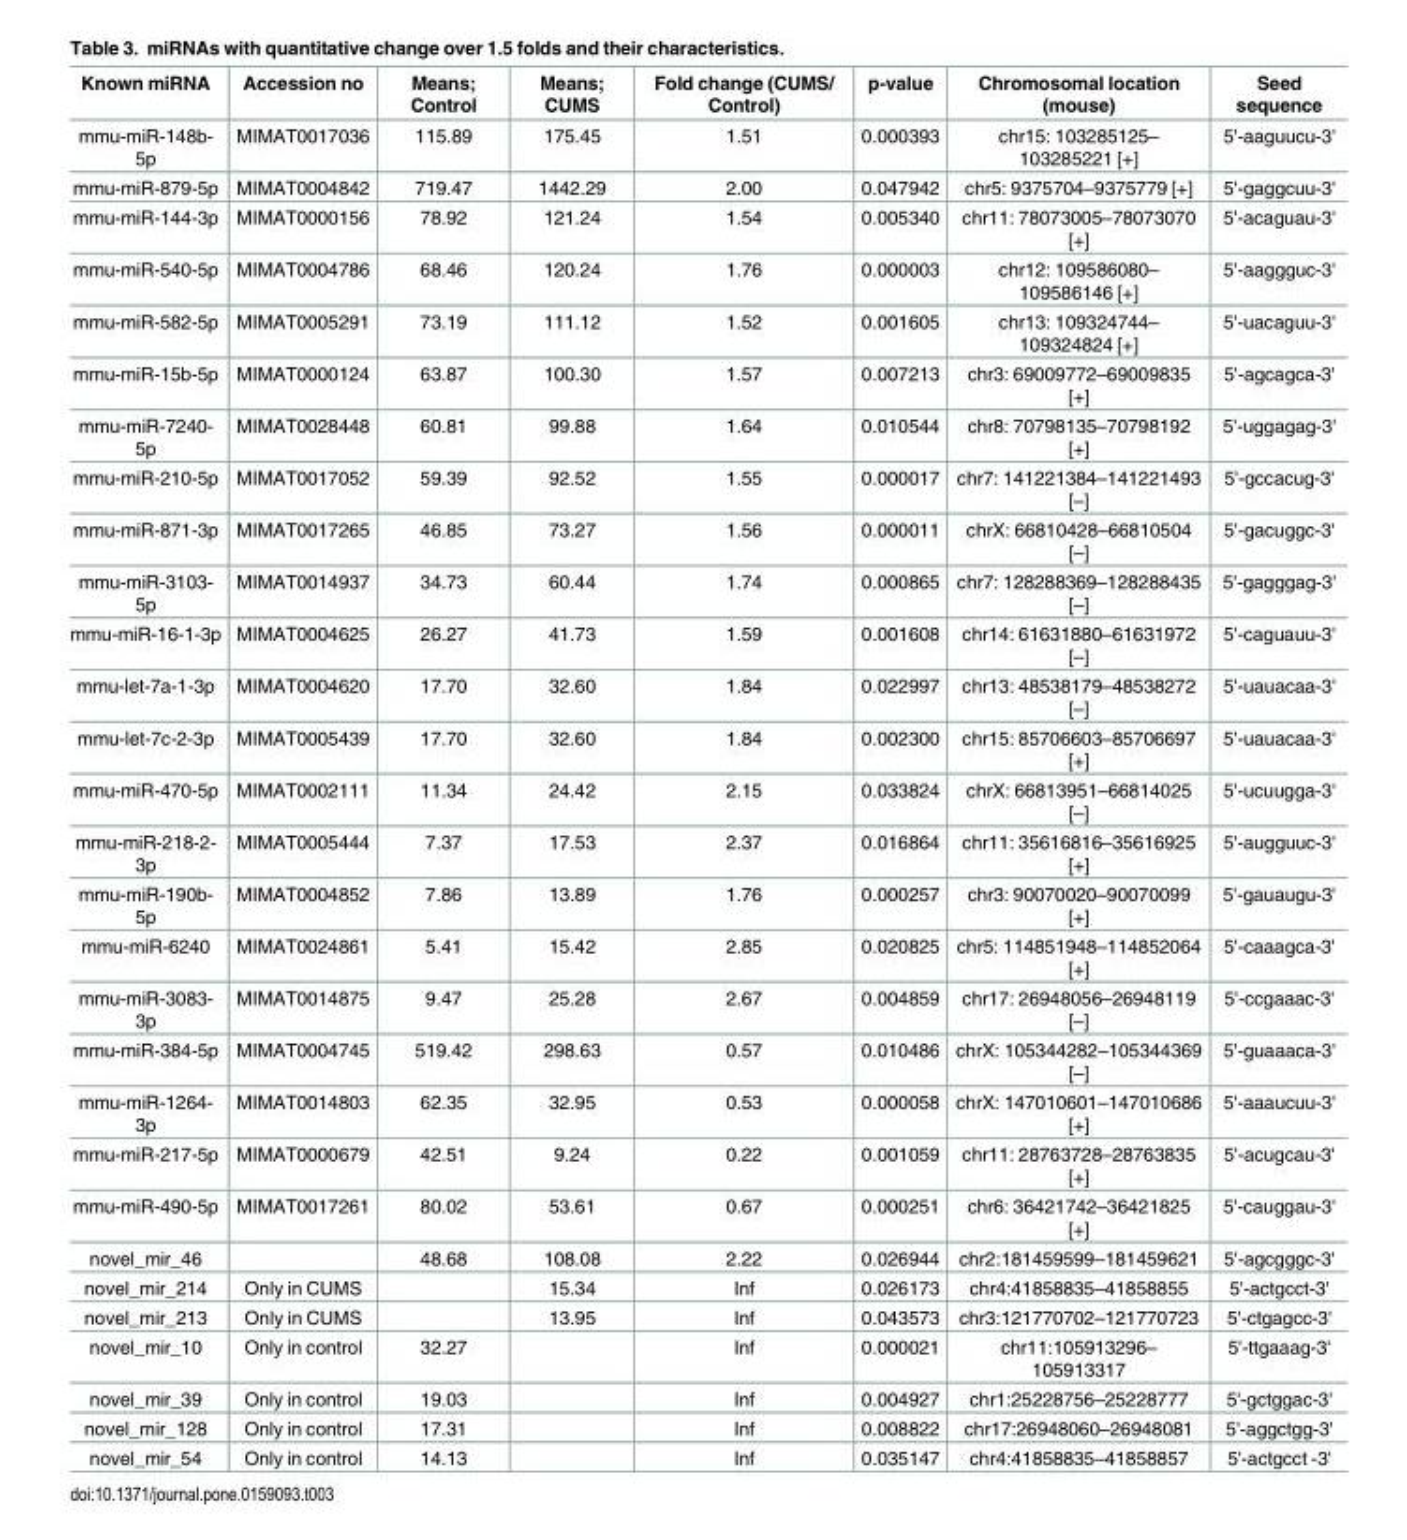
<table><thead><tr><td>Known miRNA</td><td>Accession no</td><td>Means; Control</td><td>Means; CUMS</td><td>Fold change (CUMS/ Control)</td><td>p-value</td><td>Chromosomal location (mouse)</td><td>Seed sequence</td></tr></thead><tbody><tr><td>mmu-miR-148b- 5p</td><td>MIMAT0017036</td><td>115.89</td><td>175.45</td><td>1.51</td><td>0.000393</td><td>chr15: 103285125– 103285221 [+]</td><td>5&#x27;-aaguucu-3&#x27;</td></tr><tr><td>mmu-miR-879-5p</td><td>MIMAT0004842</td><td>719.47</td><td>1442.29</td><td>2.00</td><td>0.047942</td><td>chr5: 9375704–9375779 [+]</td><td>5&#x27;-gaggcuu-3&#x27;</td></tr><tr><td>mmu-miR-144-3p</td><td>MIMAT0000156</td><td>78.92</td><td>121.24</td><td>1.54</td><td>0.005340</td><td>chr11: 78073005–78073070 [+]</td><td>5&#x27;-acaguau-3&#x27;</td></tr><tr><td>mmu-miR-540-5p</td><td>MIMAT0004786</td><td>68.46</td><td>120.24</td><td>1.76</td><td>0.000003</td><td>chr12: 109586080– 109586146 [+]</td><td>5&#x27;-aaggguc-3&#x27;</td></tr><tr><td>mmu-miR-582-5p</td><td>MIMAT0005291</td><td>73.19</td><td>111.12</td><td>1.52</td><td>0.001605</td><td>chr13: 109324744– 109324824 [+]</td><td>5&#x27;-uacaguu-3&#x27;</td></tr><tr><td>mmu-miR-15b-5p</td><td>MIMAT0000124</td><td>63.87</td><td>100.30</td><td>1.57</td><td>0.007213</td><td>chr3: 69009772–69009835 [+]</td><td>5&#x27;-agcagca-3&#x27;</td></tr><tr><td>mmu-miR-7240- 5p</td><td>MIMAT0028448</td><td>60.81</td><td>99.88</td><td>1.64</td><td>0.010544</td><td>chr8: 70798135–70798192 [+]</td><td>5&#x27;-uggagag-3&#x27;</td></tr><tr><td>mmu-miR-210-5p</td><td>MIMAT0017052</td><td>59.39</td><td>92.52</td><td>1.55</td><td>0.000017</td><td>chr7: 141221384–141221493 [–]</td><td>5&#x27;-gccacug-3&#x27;</td></tr><tr><td>mmu-miR-871-3p</td><td>MIMAT0017265</td><td>46.85</td><td>73.27</td><td>1.56</td><td>0.000011</td><td>chrX: 66810428–66810504 [–]</td><td>5&#x27;-gacuggc-3&#x27;</td></tr><tr><td>mmu-miR-3103- 5p</td><td>MIMAT0014937</td><td>34.73</td><td>60.44</td><td>1.74</td><td>0.000865</td><td>chr7: 128288369–128288435 [–]</td><td>5&#x27;-gagggag-3&#x27;</td></tr><tr><td>mmu-miR-16-1-3p</td><td>MIMAT0004625</td><td>26.27</td><td>41.73</td><td>1.59</td><td>0.001608</td><td>chr14: 61631880–61631972 [–]</td><td>5&#x27;-caguauu-3&#x27;</td></tr><tr><td>mmu-let-7a-1-3p</td><td>MIMAT0004620</td><td>17.70</td><td>32.60</td><td>1.84</td><td>0.022997</td><td>chr13: 48538179–48538272 [–]</td><td>5&#x27;-uauacaa-3&#x27;</td></tr><tr><td>mmu-let-7c-2-3p</td><td>MIMAT0005439</td><td>17.70</td><td>32.60</td><td>1.84</td><td>0.002300</td><td>chr15: 85706603–85706697 [+]</td><td>5&#x27;-uauacaa-3&#x27;</td></tr><tr><td>mmu-miR-470-5p</td><td>MIMAT0002111</td><td>11.34</td><td>24.42</td><td>2.15</td><td>0.033824</td><td>chrX: 66813951–66814025 [–]</td><td>5&#x27;-ucuugga-3&#x27;</td></tr><tr><td>mmu-miR-218-2- 3p</td><td>MIMAT0005444</td><td>7.37</td><td>17.53</td><td>2.37</td><td>0.016864</td><td>chr11: 35616816–35616925 [+]</td><td>5&#x27;-augguuc-3&#x27;</td></tr><tr><td>mmu-miR-190b- 5p</td><td>MIMAT0004852</td><td>7.86</td><td>13.89</td><td>1.76</td><td>0.000257</td><td>chr3: 90070020–90070099 [+]</td><td>5&#x27;-gauaugu-3&#x27;</td></tr><tr><td>mmu-miR-6240</td><td>MIMAT0024861</td><td>5.41</td><td>15.42</td><td>2.85</td><td>0.020825</td><td>chr5: 114851948–114852064 [+]</td><td>5&#x27;-caaagca-3&#x27;</td></tr><tr><td>mmu-miR-3083- 3p</td><td>MIMAT0014875</td><td>9.47</td><td>25.28</td><td>2.67</td><td>0.004859</td><td>chr17: 26948056–26948119 [–]</td><td>5&#x27;-ccgaaac-3&#x27;</td></tr><tr><td>mmu-miR-384-5p</td><td>MIMAT0004745</td><td>519.42</td><td>298.63</td><td>0.57</td><td>0.010486</td><td>chrX: 105344282–105344369 [–]</td><td>5&#x27;-guaaaca-3&#x27;</td></tr><tr><td>mmu-miR-1264- 3p</td><td>MIMAT0014803</td><td>62.35</td><td>32.95</td><td>0.53</td><td>0.000058</td><td>chrX: 147010601–147010686 [+]</td><td>5&#x27;-aaaucuu-3&#x27;</td></tr><tr><td>mmu-miR-217-5p</td><td>MIMAT0000679</td><td>42.51</td><td>9.24</td><td>0.22</td><td>0.001059</td><td>chr11: 28763728–28763835 [+]</td><td>5&#x27;-acugcau-3&#x27;</td></tr><tr><td>mmu-miR-490-5p</td><td>MIMAT0017261</td><td>80.02</td><td>53.61</td><td>0.67</td><td>0.000251</td><td>chr6: 36421742–36421825 [+]</td><td>5&#x27;-cauggau-3&#x27;</td></tr><tr><td>novel_mir_46</td><td></td><td>48.68</td><td>108.08</td><td>2.22</td><td>0.026944</td><td>chr2:181459599–181459621</td><td>5&#x27;-agcgggc-3&#x27;</td></tr><tr><td>novel_mir_214</td><td>Only in CUMS</td><td></td><td>15.34</td><td>Inf</td><td>0.026173</td><td>chr4:41858835–41858855</td><td>5&#x27;-actgcct-3&#x27;</td></tr><tr><td>novel_mir_213</td><td>Only in CUMS</td><td></td><td>13.95</td><td>Inf</td><td>0.043573</td><td>chr3:121770702–121770723</td><td>5&#x27;-ctgagcc-3&#x27;</td></tr><tr><td>novel_mir_10</td><td>Only in control</td><td>32.27</td><td></td><td>Inf</td><td>0.000021</td><td>chr11:105913296– 105913317</td><td>5&#x27;-ttgaaag-3&#x27;</td></tr><tr><td>novel_mir_39</td><td>Only in control</td><td>19.03</td><td></td><td>Inf</td><td>0.004927</td><td>chr1:25228756–25228777</td><td>5&#x27;-gctggac-3&#x27;</td></tr><tr><td>novel_mir_128</td><td>Only in control</td><td>17.31</td><td></td><td>Inf</td><td>0.008822</td><td>chr17:26948060–26948081</td><td>5&#x27;-aggctgg-3&#x27;</td></tr><tr><td>novel_mir_54</td><td>Only in control</td><td>14.13</td><td></td><td>Inf</td><td>0.035147</td><td>chr4:41858835–41858857</td><td>5&#x27;-actgcct -3&#x27;</td></tr></tbody></table>